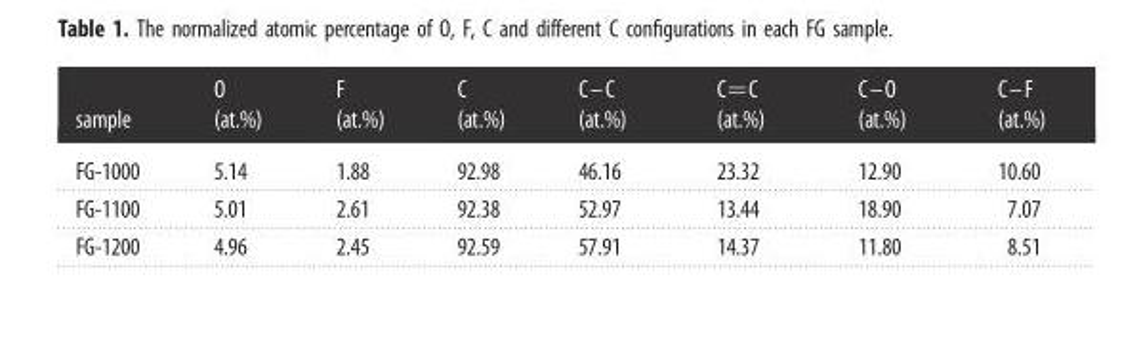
<table><thead><tr><td>sample</td><td>O (at.%)</td><td>F (at.%)</td><td>C (at.%)</td><td>C–C (at.%)</td><td>C=C (at.%)</td><td>C–O (at.%)</td><td>C–F (at.%)</td></tr></thead><tbody><tr><td>FG-1000</td><td>5.14</td><td>1.88</td><td>92.98</td><td>46.16</td><td>23.32</td><td>12.90</td><td>10.60</td></tr><tr><td>FG-1100</td><td>5.01</td><td>2.61</td><td>92.38</td><td>52.97</td><td>13.44</td><td>18.90</td><td>7.07</td></tr><tr><td>FG-1200</td><td>4.96</td><td>2.45</td><td>92.59</td><td>57.91</td><td>14.37</td><td>11.80</td><td>8.51</td></tr></tbody></table>